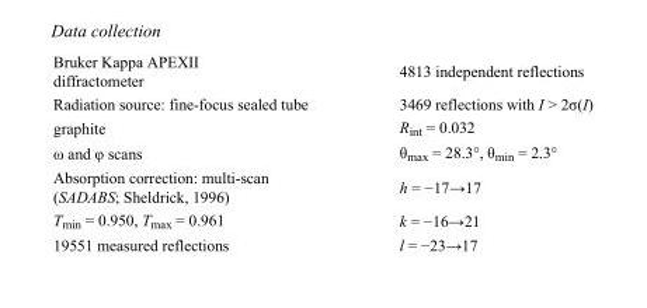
<table><tbody><tr><td>Bruker Kappa APEXII diffractometer</td><td>4813 independent reflections</td></tr><tr><td>Radiation source: fine-focus sealed tube</td><td>3469 reflections with I &gt; 2σ(I)</td></tr><tr><td>graphite</td><td>R<sub>int</sub> = 0.032</td></tr><tr><td>ω and φ scans</td><td>θ<sub>max</sub> = 28.3°, θ<sub>min</sub> = 2.3°</td></tr><tr><td>Absorption correction: multi-scan (SADABS; Sheldrick, 1996)</td><td>h = −17→17</td></tr><tr><td>T<sub>min</sub> = 0.950, T<sub>max</sub> = 0.961</td><td>k = −16→21</td></tr><tr><td>19551 measured reflections</td><td>l = −23→17</td></tr></tbody></table>